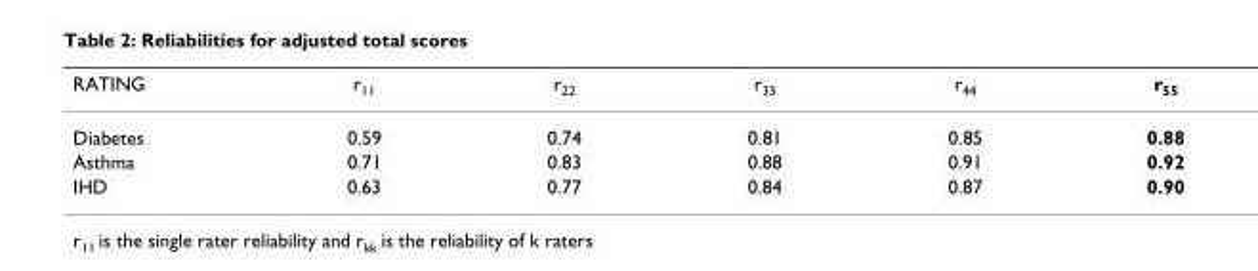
<table><thead><tr><td>RATING</td><td>r<sub>11</sub></td><td>r<sub>22</sub></td><td>r<sub>33</sub></td><td>r<sub>44</sub></td><td>r<sub>55</sub></td></tr></thead><tbody><tr><td>Diabetes</td><td>0.59</td><td>0.74</td><td>0.81</td><td>0.85</td><td>0.88</td></tr><tr><td>Asthma</td><td>0.71</td><td>0.83</td><td>0.88</td><td>0.91</td><td>0.92</td></tr><tr><td>IHD</td><td>0.63</td><td>0.77</td><td>0.84</td><td>0.87</td><td>0.90</td></tr></tbody></table>